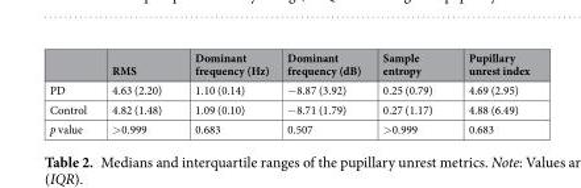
<table><thead><tr><td></td><td>RMS</td><td>Dominant frequency (Hz)</td><td>Dominant frequency (dB)</td><td>Sample entropy</td><td>Pupillary unrest index</td></tr></thead><tbody><tr><td>PD</td><td>4.63 (2.20)</td><td>1.10 (0.14)</td><td>−8.87 (3.92)</td><td>0.25 (0.79)</td><td>4.69 (2.95)</td></tr><tr><td>Control</td><td>4.82 (1.48)</td><td>1.09 (0.10)</td><td>−8.71 (1.79)</td><td>0.27 (1.17)</td><td>4.88 (6.49)</td></tr><tr><td>p value</td><td>&gt;0.999</td><td>0.683</td><td>0.507</td><td>&gt;0.999</td><td>0.683</td></tr></tbody></table>